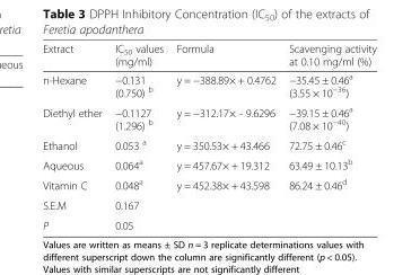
<table><thead><tr><td>Extract</td><td>IC<sub>50</sub> values (mg/ml)</td><td>Formula</td><td>Scavenging activity at 0.10 mg/ml (%)</td></tr></thead><tbody><tr><td>n-Hexane</td><td>−0.131 (0.750) <sup>b</sup></td><td>y = −388.89× + 0.4762</td><td>−35.45 ± 0.46<sup>a</sup> (3.55 × 10<sup>−36</sup>)</td></tr><tr><td>Diethyl ether</td><td>−0.1127 (1.296) <sup>b</sup></td><td>y = −312.17× - 9.6296</td><td>−39.15 ± 0.46<sup>a</sup> (7.08 × 10<sup>−40</sup>)</td></tr><tr><td>Ethanol</td><td>0.053 <sup>a</sup></td><td>y = 350.53× + 43.466</td><td>72.75 ± 0.46<sup>c</sup></td></tr><tr><td>Aqueous</td><td>0.064<sup>a</sup></td><td>y = 457.67× + 19.312</td><td>63.49 ± 10.13<sup>b</sup></td></tr><tr><td>Vitamin C</td><td>0.048<sup>a</sup></td><td>y = 452.38× + 43.598</td><td>86.24 ± 0.46<sup>d</sup></td></tr><tr><td>S.E.M</td><td>0.167</td><td></td><td></td></tr><tr><td>P</td><td>0.05</td><td></td><td></td></tr></tbody></table>